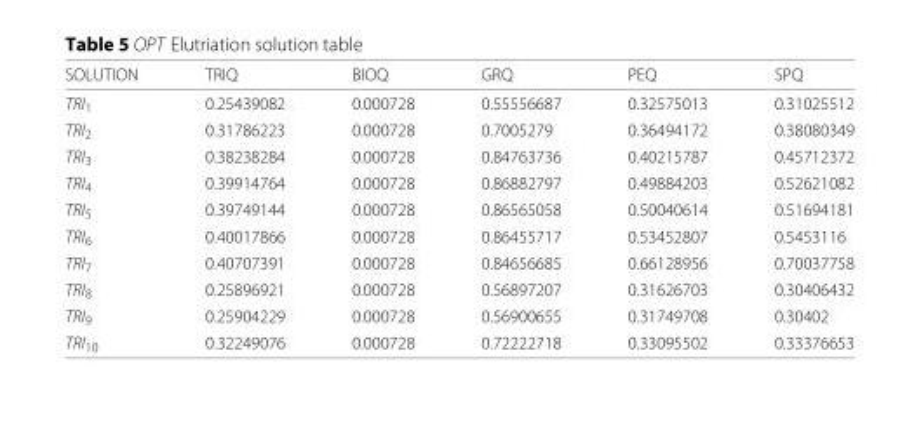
<table><thead><tr><td>SOLUTION</td><td>TRIQ</td><td>BIOQ</td><td>GRQ</td><td>PEQ</td><td>SPQ</td></tr></thead><tbody><tr><td>TRI<sub>1</sub></td><td>0.25439082</td><td>0.000728</td><td>0.55556687</td><td>0.32575013</td><td>0.31025512</td></tr><tr><td>TRI<sub>2</sub></td><td>0.31786223</td><td>0.000728</td><td>0.7005279</td><td>0.36494172</td><td>0.38080349</td></tr><tr><td>TRI<sub>3</sub></td><td>0.38238284</td><td>0.000728</td><td>0.84763736</td><td>0.40215787</td><td>0.45712372</td></tr><tr><td>TRI<sub>4</sub></td><td>0.39914764</td><td>0.000728</td><td>0.86882797</td><td>0.49884203</td><td>0.52621082</td></tr><tr><td>TRI<sub>5</sub></td><td>0.39749144</td><td>0.000728</td><td>0.86565058</td><td>0.50040614</td><td>0.51694181</td></tr><tr><td>TRI<sub>6</sub></td><td>0.40017866</td><td>0.000728</td><td>0.86455717</td><td>0.53452807</td><td>0.5453116</td></tr><tr><td>TRI<sub>7</sub></td><td>0.40707391</td><td>0.000728</td><td>0.84656685</td><td>0.66128956</td><td>0.70037758</td></tr><tr><td>TRI<sub>8</sub></td><td>0.25896921</td><td>0.000728</td><td>0.56897207</td><td>0.31626703</td><td>0.30406432</td></tr><tr><td>TRI<sub>9</sub></td><td>0.25904229</td><td>0.000728</td><td>0.56900655</td><td>0.31749708</td><td>0.30402</td></tr><tr><td>TRI<sub>10</sub></td><td>0.32249076</td><td>0.000728</td><td>0.72222718</td><td>0.33095502</td><td>0.33376653</td></tr></tbody></table>